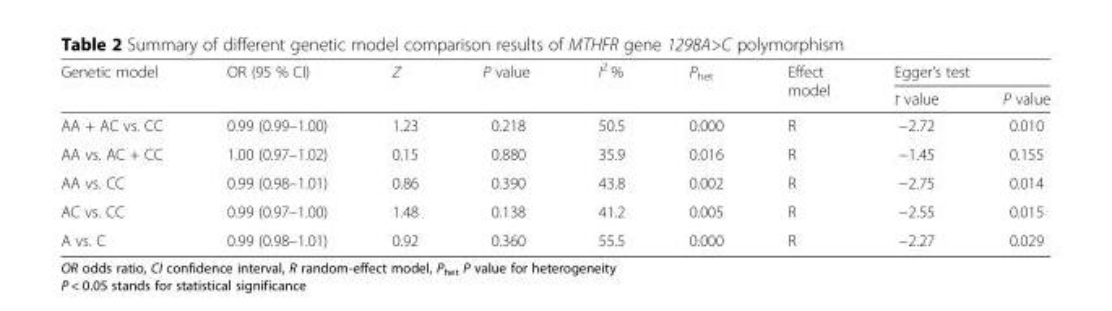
<table><thead><tr><td rowspan="2">Genetic model</td><td rowspan="2">OR (95 % CI)</td><td rowspan="2">Z</td><td rowspan="2">P value</td><td rowspan="2">I<sup>2</sup> %</td><td rowspan="2">P<sub>het</sub></td><td rowspan="2">Effect model</td><td colspan="2">Egger’s test</td></tr><tr><td>t value</td><td>P value</td></tr></thead><tbody><tr><td>AA + AC vs. CC</td><td>0.99 (0.99–1.00)</td><td>1.23</td><td>0.218</td><td>50.5</td><td>0.000</td><td>R</td><td>−2.72</td><td>0.010</td></tr><tr><td>AA vs. AC + CC</td><td>1.00 (0.97–1.02)</td><td>0.15</td><td>0.880</td><td>35.9</td><td>0.016</td><td>R</td><td>−1.45</td><td>0.155</td></tr><tr><td>AA vs. CC</td><td>0.99 (0.98–1.01)</td><td>0.86</td><td>0.390</td><td>43.8</td><td>0.002</td><td>R</td><td>−2.75</td><td>0.014</td></tr><tr><td>AC vs. CC</td><td>0.99 (0.97–1.00)</td><td>1.48</td><td>0.138</td><td>41.2</td><td>0.005</td><td>R</td><td>−2.55</td><td>0.015</td></tr><tr><td>A vs. C</td><td>0.99 (0.98–1.01)</td><td>0.92</td><td>0.360</td><td>55.5</td><td>0.000</td><td>R</td><td>−2.27</td><td>0.029</td></tr></tbody></table>